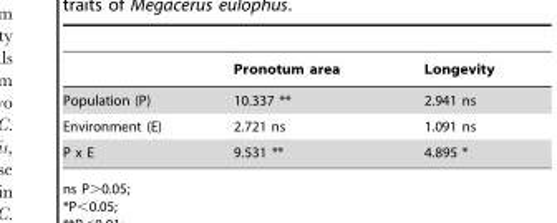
<table><thead><tr><td></td><td>Pronotum area</td><td>Longevity</td></tr></thead><tbody><tr><td>Population (P)</td><td>10.337 **</td><td>2.941 ns</td></tr><tr><td>Environment (E)</td><td>2.721 ns</td><td>1.091 ns</td></tr><tr><td>P x E</td><td>9.531 **</td><td>4.895 *</td></tr></tbody></table>